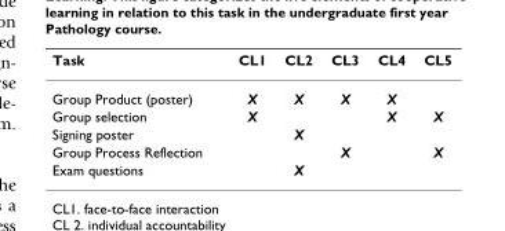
<table><thead><tr><td>Task</td><td>CL1</td><td>CL2</td><td>CL3</td><td>CL4</td><td>CL5</td></tr></thead><tbody><tr><td>Group Product (poster)</td><td>X</td><td>X</td><td>X</td><td>X</td><td></td></tr><tr><td>Group selection</td><td>X</td><td></td><td></td><td>X</td><td>X</td></tr><tr><td>Signing poster</td><td></td><td>X</td><td></td><td></td><td></td></tr><tr><td>Group Process Reflection</td><td></td><td></td><td>X</td><td></td><td>X</td></tr><tr><td>Exam questions</td><td></td><td>X</td><td></td><td></td><td></td></tr></tbody></table>